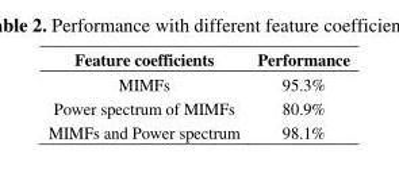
<table><thead><tr><td>Feature coefficients</td><td>Performance</td></tr></thead><tbody><tr><td>MIMFs</td><td>95.3%</td></tr><tr><td>Power spectrum of MIMFs</td><td>80.9%</td></tr><tr><td>MIMFs and Power spectrum</td><td>98.1%</td></tr></tbody></table>